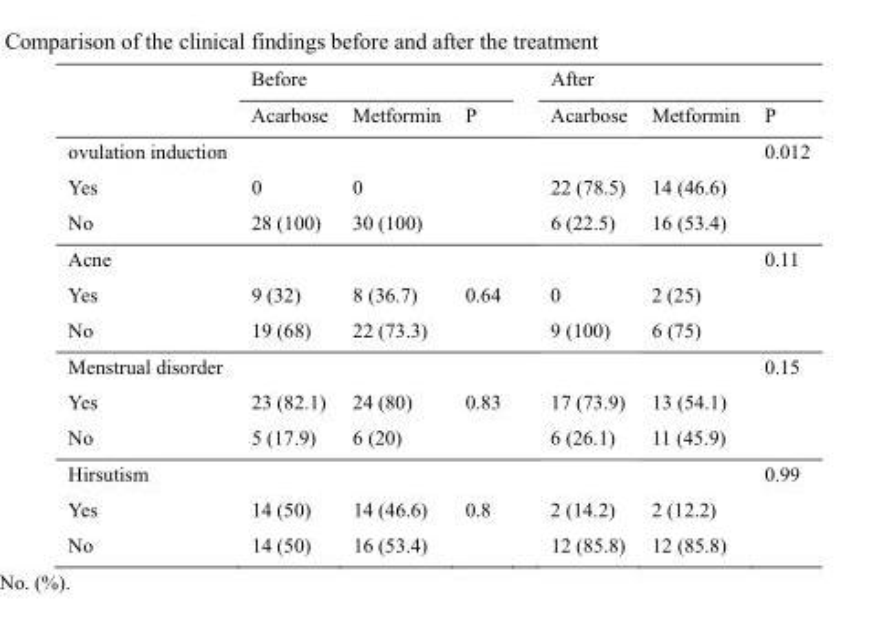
<table><thead><tr><td rowspan="2"></td><td colspan="3">Before</td><td colspan="3">After</td></tr><tr><td>Acarbose</td><td>Metformin</td><td>P</td><td>Acarbose</td><td>Metformin</td><td>P</td></tr></thead><tbody><tr><td>ovulation induction</td><td></td><td></td><td></td><td></td><td></td><td>0.012</td></tr><tr><td>Yes</td><td>0</td><td>0</td><td></td><td>22 (78.5)</td><td>14 (46.6)</td><td></td></tr><tr><td>No</td><td>28 (100)</td><td>30 (100)</td><td></td><td>6 (22.5)</td><td>16 (53.4)</td><td></td></tr><tr><td>Acne</td><td></td><td></td><td></td><td></td><td></td><td>0.11</td></tr><tr><td>Yes</td><td>9 (32)</td><td>8 (36.7)</td><td>0.64</td><td>0</td><td>2 (25)</td><td></td></tr><tr><td>No</td><td>19 (68)</td><td>22 (73.3)</td><td></td><td>9 (100)</td><td>6 (75)</td><td></td></tr><tr><td>Menstrual disorder</td><td></td><td></td><td></td><td></td><td></td><td>0.15</td></tr><tr><td>Yes</td><td>23 (82.1)</td><td>24 (80)</td><td>0.83</td><td>17 (73.9)</td><td>13 (54.1)</td><td></td></tr><tr><td>No</td><td>5 (17.9)</td><td>6 (20)</td><td></td><td>6 (26.1)</td><td>11 (45.9)</td><td></td></tr><tr><td>Hirsutism</td><td></td><td></td><td></td><td></td><td></td><td>0.99</td></tr><tr><td>Yes</td><td>14 (50)</td><td>14 (46.6)</td><td>0.8</td><td>2 (14.2)</td><td>2 (12.2)</td><td></td></tr><tr><td>No</td><td>14 (50)</td><td>16 (53.4)</td><td></td><td>12 (85.8)</td><td>12 (85.8)</td><td></td></tr></tbody></table>